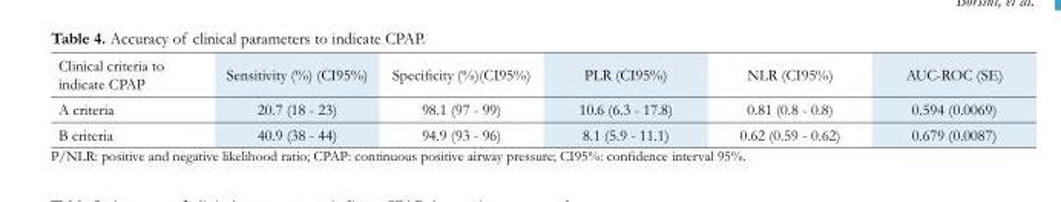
<table><thead><tr><td>Clinical criteria to indicate CPAP</td><td>Sensitivity (%) (CI95%)</td><td>Specificity (%)(CI95%)</td><td>PLR (CI95%)</td><td>NLR (CI95%)</td><td>AUC-ROC (SE)</td></tr></thead><tbody><tr><td>A criteria</td><td>20.7 (18 - 23)</td><td>98.1 (97 - 99)</td><td>10.6 (6.3 - 17.8)</td><td>0.81 (0.8 - 0.8)</td><td>0.594 (0.0069)</td></tr><tr><td>B criteria</td><td>40.9 (38 - 44)</td><td>94.9 (93 - 96)</td><td>8.1 (5.9 - 11.1)</td><td>0.62 (0.59 - 0.62)</td><td>0.679 (0.0087)</td></tr></tbody></table>